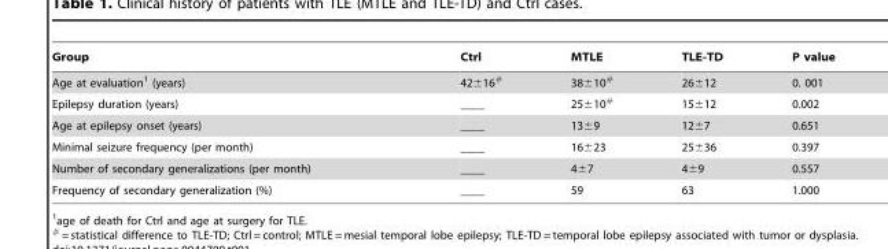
<table><thead><tr><td>Group</td><td>Ctrl</td><td>MTLE</td><td>TLE-TD</td><td>P value</td></tr></thead><tbody><tr><td>Age at evaluation<sup>1</sup> (years)</td><td>42±16#</td><td>38±10#</td><td>26±12</td><td>0. 001</td></tr><tr><td>Epilepsy duration (years)</td><td>____</td><td>25±10#</td><td>15±12</td><td>0.002</td></tr><tr><td>Age at epilepsy onset (years)</td><td>____</td><td>13±9</td><td>12±7</td><td>0.651</td></tr><tr><td>Minimal seizure frequency (per month)</td><td>____</td><td>16±23</td><td>25±36</td><td>0.397</td></tr><tr><td>Number of secondary generalizations (per month)</td><td>____</td><td>4±7</td><td>4±9</td><td>0.557</td></tr><tr><td>Frequency of secondary generalization (%)</td><td>____</td><td>59</td><td>63</td><td>1.000</td></tr></tbody></table>